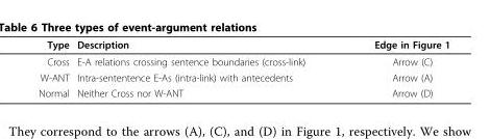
<table><thead><tr><td>Type</td><td>Description</td><td>Edge in Figure 1</td></tr></thead><tbody><tr><td>Cross</td><td>E-A relations crossing sentence boundaries (cross-link)</td><td>Arrow (C)</td></tr><tr><td>W-ANT</td><td>Intra-sententence E-As (intra-link) with antecedents</td><td>Arrow (A)</td></tr><tr><td>Normal</td><td>Neither Cross nor W-ANT</td><td>Arrow (D)</td></tr></tbody></table>